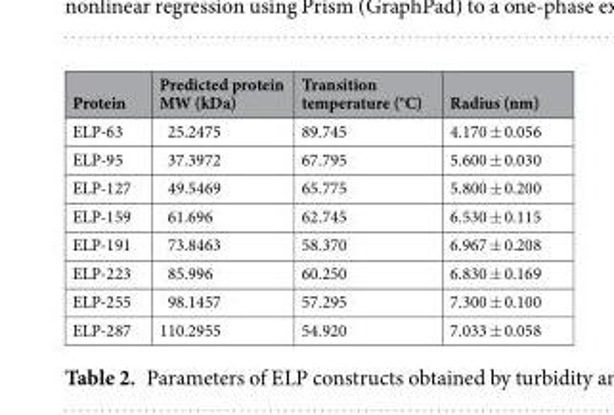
<table><thead><tr><td>Protein</td><td>Predicted protein MW (kDa)</td><td>Transition temperature (°C)</td><td>Radius (nm)</td></tr></thead><tbody><tr><td>ELP-63</td><td>25.2475</td><td>89.745</td><td>4.170 ± 0.056</td></tr><tr><td>ELP-95</td><td>37.3972</td><td>67.795</td><td>5.600 ± 0.030</td></tr><tr><td>ELP-127</td><td>49.5469</td><td>65.775</td><td>5.800 ± 0.200</td></tr><tr><td>ELP-159</td><td>61.696</td><td>62.745</td><td>6.530 ± 0.115</td></tr><tr><td>ELP-191</td><td>73.8463</td><td>58.370</td><td>6.967 ± 0.208</td></tr><tr><td>ELP-223</td><td>85.996</td><td>60.250</td><td>6.830 ± 0.169</td></tr><tr><td>ELP-255</td><td>98.1457</td><td>57.295</td><td>7.300 ± 0.100</td></tr><tr><td>ELP-287</td><td>110.2955</td><td>54.920</td><td>7.033 ± 0.058</td></tr></tbody></table>